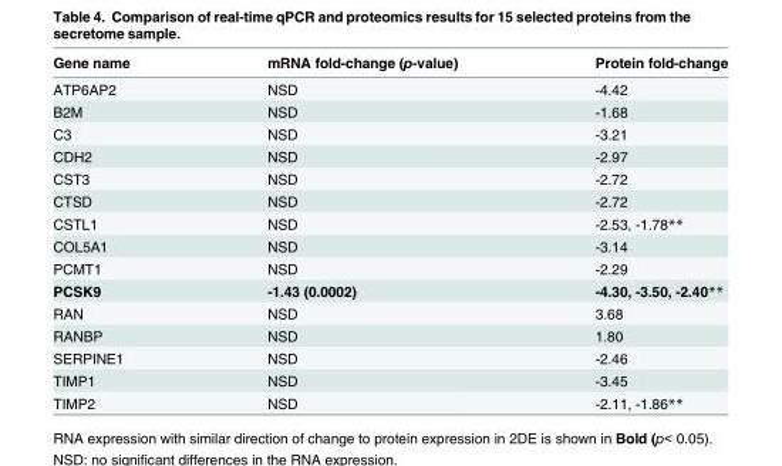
<table><thead><tr><td>Gene name</td><td>mRNA fold-change (p-value)</td><td>Protein fold-change</td></tr></thead><tbody><tr><td>ATP6AP2</td><td>NSD</td><td>-4.42</td></tr><tr><td>B2M</td><td>NSD</td><td>-1.68</td></tr><tr><td>C3</td><td>NSD</td><td>-3.21</td></tr><tr><td>CDH2</td><td>NSD</td><td>-2.97</td></tr><tr><td>CST3</td><td>NSD</td><td>-2.72</td></tr><tr><td>CTSD</td><td>NSD</td><td>-2.72</td></tr><tr><td>CSTL1</td><td>NSD</td><td>-2.53, -1.78**</td></tr><tr><td>COL5A1</td><td>NSD</td><td>-3.14</td></tr><tr><td>PCMT1</td><td>NSD</td><td>-2.29</td></tr><tr><td>PCSK9</td><td>-1.43 (0.0002)</td><td>-4.30, -3.50, -2.40**</td></tr><tr><td>RAN</td><td>NSD</td><td>3.68</td></tr><tr><td>RANBP</td><td>NSD</td><td>1.80</td></tr><tr><td>SERPINE1</td><td>NSD</td><td>-2.46</td></tr><tr><td>TIMP1</td><td>NSD</td><td>-3.45</td></tr><tr><td>TIMP2</td><td>NSD</td><td>-2.11, -1.86**</td></tr></tbody></table>